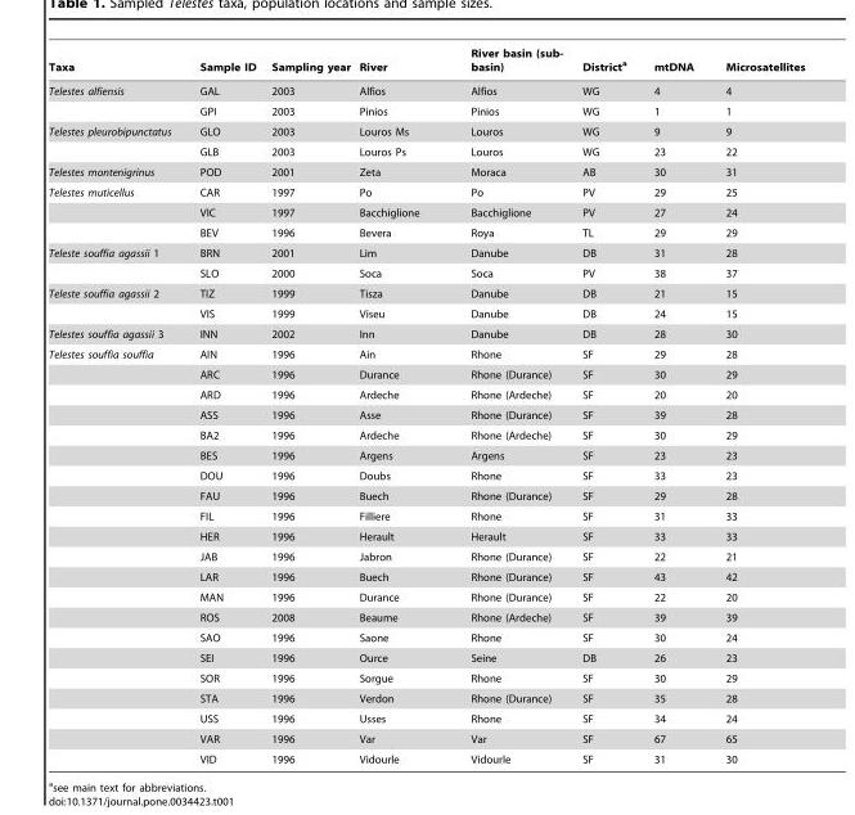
<table><thead><tr><td>Taxa</td><td>Sample ID</td><td>Sampling year</td><td>River</td><td>River basin (sub- basin)</td><td>District<sup>a</sup></td><td>mtDNA</td><td>Microsatellites</td></tr></thead><tbody><tr><td rowspan="2">Telestes alfiensis</td><td>GAL</td><td>2003</td><td>Alfios</td><td>Alfios</td><td>WG</td><td>4</td><td>4</td></tr><tr><td>GPI</td><td>2003</td><td>Pinios</td><td>Pinios</td><td>WG</td><td>1</td><td>1</td></tr><tr><td rowspan="2">Telestes pleurobipunctatus</td><td>GLO</td><td>2003</td><td>Louros Ms</td><td>Louros</td><td>WG</td><td>9</td><td>9</td></tr><tr><td>GLB</td><td>2003</td><td>Louros Ps</td><td>Louros</td><td>WG</td><td>23</td><td>22</td></tr><tr><td>Telestes montenigrinus</td><td>POD</td><td>2001</td><td>Zeta</td><td>Moraca</td><td>AB</td><td>30</td><td>31</td></tr><tr><td rowspan="3">Telestes muticellus</td><td>CAR</td><td>1997</td><td>Po</td><td>Po</td><td>PV</td><td>29</td><td>25</td></tr><tr><td>VIC</td><td>1997</td><td>Bacchiglione</td><td>Bacchiglione</td><td>PV</td><td>27</td><td>24</td></tr><tr><td>BEV</td><td>1996</td><td>Bevera</td><td>Roya</td><td>TL</td><td>29</td><td>29</td></tr><tr><td rowspan="2">Teleste souffia agassii 1</td><td>BRN</td><td>2001</td><td>Lim</td><td>Danube</td><td>DB</td><td>31</td><td>28</td></tr><tr><td>SLO</td><td>2000</td><td>Soca</td><td>Soca</td><td>PV</td><td>38</td><td>37</td></tr><tr><td rowspan="2">Teleste souffia agassii 2</td><td>TIZ</td><td>1999</td><td>Tisza</td><td>Danube</td><td>DB</td><td>21</td><td>15</td></tr><tr><td>VIS</td><td>1999</td><td>Viseu</td><td>Danube</td><td>DB</td><td>24</td><td>15</td></tr><tr><td>Telestes souffia agassii 3</td><td>INN</td><td>2002</td><td>Inn</td><td>Danube</td><td>DB</td><td>28</td><td>30</td></tr><tr><td rowspan="21">Telestes souffia souffia</td><td>AIN</td><td>1996</td><td>Ain</td><td>Rhone</td><td>SF</td><td>29</td><td>28</td></tr><tr><td>ARC</td><td>1996</td><td>Durance</td><td>Rhone (Durance)</td><td>SF</td><td>30</td><td>29</td></tr><tr><td>ARD</td><td>1996</td><td>Ardeche</td><td>Rhone (Ardeche)</td><td>SF</td><td>20</td><td>20</td></tr><tr><td>ASS</td><td>1996</td><td>Asse</td><td>Rhone (Durance)</td><td>SF</td><td>39</td><td>28</td></tr><tr><td>BA2</td><td>1996</td><td>Ardeche</td><td>Rhone (Ardeche)</td><td>SF</td><td>30</td><td>29</td></tr><tr><td>BES</td><td>1996</td><td>Argens</td><td>Argens</td><td>SF</td><td>23</td><td>23</td></tr><tr><td>DOU</td><td>1996</td><td>Doubs</td><td>Rhone</td><td>SF</td><td>33</td><td>23</td></tr><tr><td>FAU</td><td>1996</td><td>Buech</td><td>Rhone (Durance)</td><td>SF</td><td>29</td><td>28</td></tr><tr><td>FIL</td><td>1996</td><td>Filliere</td><td>Rhone</td><td>SF</td><td>31</td><td>33</td></tr><tr><td>HER</td><td>1996</td><td>Herault</td><td>Herault</td><td>SF</td><td>33</td><td>33</td></tr><tr><td>JAB</td><td>1996</td><td>Jabron</td><td>Rhone (Durance)</td><td>SF</td><td>22</td><td>21</td></tr><tr><td>LAR</td><td>1996</td><td>Buech</td><td>Rhone (Durance)</td><td>SF</td><td>43</td><td>42</td></tr><tr><td>MAN</td><td>1996</td><td>Durance</td><td>Rhone (Durance)</td><td>SF</td><td>22</td><td>20</td></tr><tr><td>ROS</td><td>2008</td><td>Beaume</td><td>Rhone (Ardeche)</td><td>SF</td><td>39</td><td>39</td></tr><tr><td>SAO</td><td>1996</td><td>Saone</td><td>Rhone</td><td>SF</td><td>30</td><td>24</td></tr><tr><td>SEI</td><td>1996</td><td>Ource</td><td>Seine</td><td>DB</td><td>26</td><td>23</td></tr><tr><td>SOR</td><td>1996</td><td>Sorgue</td><td>Rhone</td><td>SF</td><td>30</td><td>29</td></tr><tr><td>STA</td><td>1996</td><td>Verdon</td><td>Rhone (Durance)</td><td>SF</td><td>35</td><td>28</td></tr><tr><td>USS</td><td>1996</td><td>Usses</td><td>Rhone</td><td>SF</td><td>34</td><td>24</td></tr><tr><td>VAR</td><td>1996</td><td>Var</td><td>Var</td><td>SF</td><td>67</td><td>65</td></tr><tr><td>VID</td><td>1996</td><td>Vidourle</td><td>Vidourle</td><td>SF</td><td>31</td><td>30</td></tr></tbody></table>